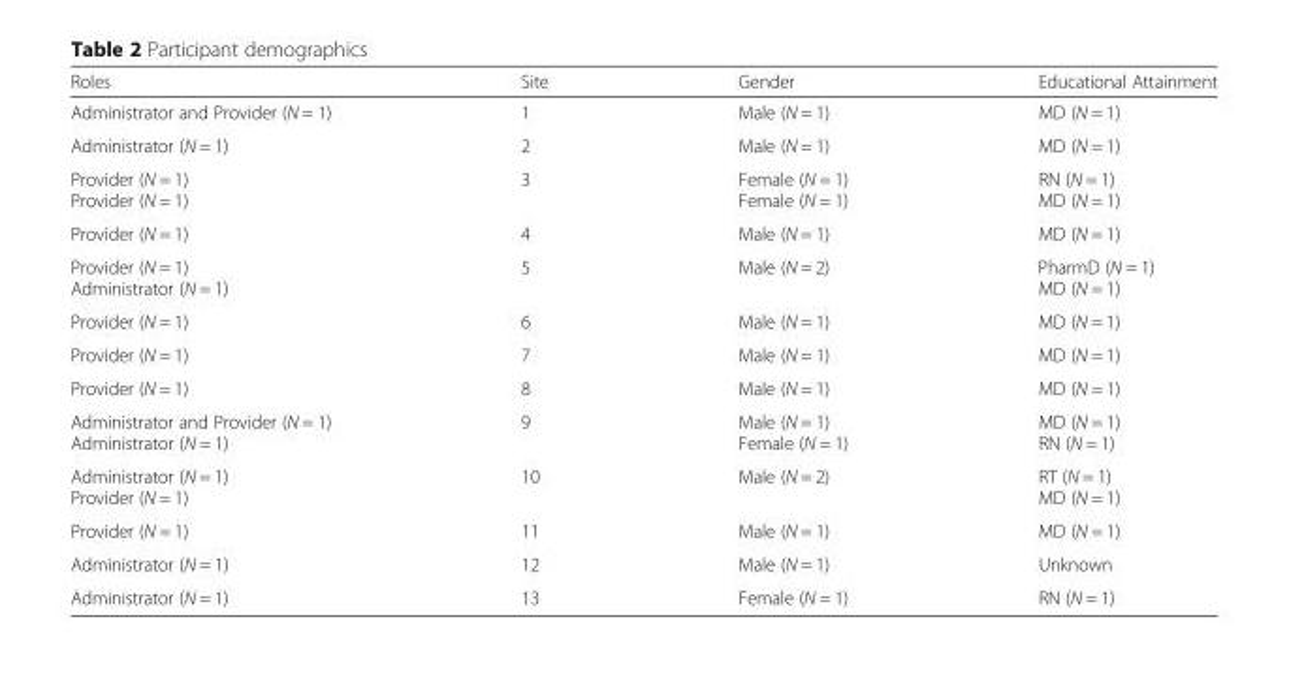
<table><thead><tr><td>Roles</td><td>Site</td><td>Gender</td><td>Educational Attainment</td></tr></thead><tbody><tr><td>Administrator and Provider (N = 1)</td><td>1</td><td>Male (N = 1)</td><td>MD (N = 1)</td></tr><tr><td>Administrator (N = 1)</td><td>2</td><td>Male (N = 1)</td><td>MD (N = 1)</td></tr><tr><td>Provider (N = 1) Provider (N = 1)</td><td>3</td><td>Female (N = 1) Female (N = 1)</td><td>RN (N = 1) MD (N = 1)</td></tr><tr><td>Provider (N = 1)</td><td>4</td><td>Male (N = 1)</td><td>MD (N = 1)</td></tr><tr><td>Provider (N = 1) Administrator (N = 1)</td><td>5</td><td>Male (N = 2)</td><td>PharmD (N = 1) MD (N = 1)</td></tr><tr><td>Provider (N = 1)</td><td>6</td><td>Male (N = 1)</td><td>MD (N = 1)</td></tr><tr><td>Provider (N = 1)</td><td>7</td><td>Male (N = 1)</td><td>MD (N = 1)</td></tr><tr><td>Provider (N = 1)</td><td>8</td><td>Male (N = 1)</td><td>MD (N = 1)</td></tr><tr><td>Administrator and Provider (N = 1) Administrator (N = 1)</td><td>9</td><td>Male (N = 1) Female (N = 1)</td><td>MD (N = 1) RN (N = 1)</td></tr><tr><td>Administrator (N = 1) Provider (N = 1)</td><td>10</td><td>Male (N = 2)</td><td>RT (N = 1) MD (N = 1)</td></tr><tr><td>Provider (N = 1)</td><td>11</td><td>Male (N = 1)</td><td>MD (N = 1)</td></tr><tr><td>Administrator (N = 1)</td><td>12</td><td>Male (N = 1)</td><td>Unknown</td></tr><tr><td>Administrator (N = 1)</td><td>13</td><td>Female (N = 1)</td><td>RN (N = 1)</td></tr></tbody></table>